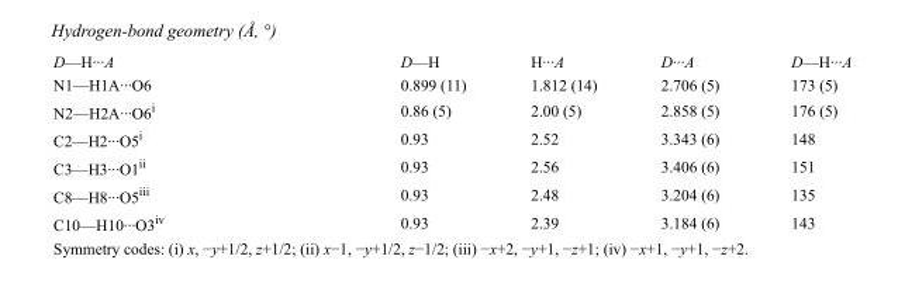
<table><tbody><tr><td>D—H···A</td><td>D—H</td><td>H···A</td><td>D···A</td><td>D—H···A</td></tr><tr><td>N1—H1A···O6</td><td>0.899 (11)</td><td>1.812 (14)</td><td>2.706 (5)</td><td>173 (5)</td></tr><tr><td>N2—H2A···O6<sup>i</sup></td><td>0.86 (5)</td><td>2.00 (5)</td><td>2.858 (5)</td><td>176 (5)</td></tr><tr><td>C2—H2···O5<sup>i</sup></td><td>0.93</td><td>2.52</td><td>3.343 (6)</td><td>148</td></tr><tr><td>C3—H3···O1<sup>ii</sup></td><td>0.93</td><td>2.56</td><td>3.406 (6)</td><td>151</td></tr><tr><td>C8—H8···O5<sup>iii</sup></td><td>0.93</td><td>2.48</td><td>3.204 (6)</td><td>135</td></tr><tr><td>C10—H10···O3<sup>iv</sup></td><td>0.93</td><td>2.39</td><td>3.184 (6)</td><td>143</td></tr></tbody></table>